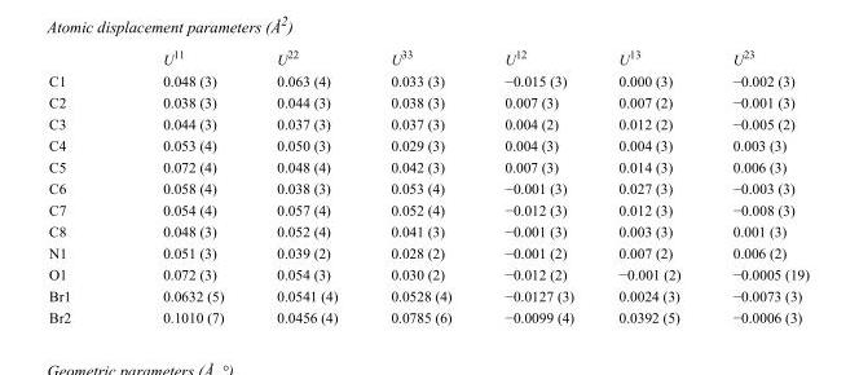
<table><thead><tr><td></td><td>U<sup>11</sup></td><td>U<sup>22</sup></td><td>U<sup>33</sup></td><td>U<sup>12</sup></td><td>U<sup>13</sup></td><td>U<sup>23</sup></td></tr></thead><tbody><tr><td>C1</td><td>0.048 (3)</td><td>0.063 (4)</td><td>0.033 (3)</td><td>−0.015 (3)</td><td>0.000 (3)</td><td>−0.002 (3)</td></tr><tr><td>C2</td><td>0.038 (3)</td><td>0.044 (3)</td><td>0.038 (3)</td><td>0.007 (3)</td><td>0.007 (2)</td><td>−0.001 (3)</td></tr><tr><td>C3</td><td>0.044 (3)</td><td>0.037 (3)</td><td>0.037 (3)</td><td>0.004 (2)</td><td>0.012 (2)</td><td>−0.005 (2)</td></tr><tr><td>C4</td><td>0.053 (4)</td><td>0.050 (3)</td><td>0.029 (3)</td><td>0.004 (3)</td><td>0.004 (3)</td><td>0.003 (3)</td></tr><tr><td>C5</td><td>0.072 (4)</td><td>0.048 (4)</td><td>0.042 (3)</td><td>0.007 (3)</td><td>0.014 (3)</td><td>0.006 (3)</td></tr><tr><td>C6</td><td>0.058 (4)</td><td>0.038 (3)</td><td>0.053 (4)</td><td>−0.001 (3)</td><td>0.027 (3)</td><td>−0.003 (3)</td></tr><tr><td>C7</td><td>0.054 (4)</td><td>0.057 (4)</td><td>0.052 (4)</td><td>−0.012 (3)</td><td>0.012 (3)</td><td>−0.008 (3)</td></tr><tr><td>C8</td><td>0.048 (3)</td><td>0.052 (4)</td><td>0.041 (3)</td><td>−0.001 (3)</td><td>0.003 (3)</td><td>0.001 (3)</td></tr><tr><td>N1</td><td>0.051 (3)</td><td>0.039 (2)</td><td>0.028 (2)</td><td>−0.001 (2)</td><td>0.007 (2)</td><td>0.006 (2)</td></tr><tr><td>O1</td><td>0.072 (3)</td><td>0.054 (3)</td><td>0.030 (2)</td><td>−0.012 (2)</td><td>−0.001 (2)</td><td>−0.0005 (19)</td></tr><tr><td>Br1</td><td>0.0632 (5)</td><td>0.0541 (4)</td><td>0.0528 (4)</td><td>−0.0127 (3)</td><td>0.0024 (3)</td><td>−0.0073 (3)</td></tr><tr><td>Br2</td><td>0.1010 (7)</td><td>0.0456 (4)</td><td>0.0785 (6)</td><td>−0.0099 (4)</td><td>0.0392 (5)</td><td>−0.0006 (3)</td></tr></tbody></table>